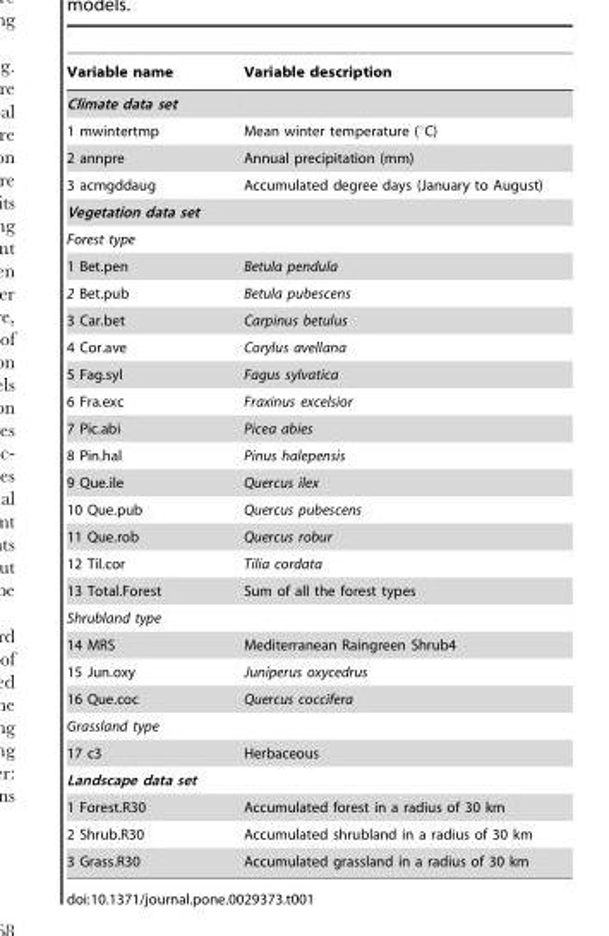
<table><thead><tr><td>Variable name</td><td>Variable description</td></tr></thead><tbody><tr><td colspan="2">Climate data set</td></tr><tr><td>1 mwintertmp</td><td>Mean winter temperature (°C)</td></tr><tr><td>2 annpre</td><td>Annual precipitation (mm)</td></tr><tr><td>3 acmgddaug</td><td>Accumulated degree days (January to August)</td></tr><tr><td colspan="2">Vegetation data set</td></tr><tr><td colspan="2">Forest type</td></tr><tr><td>1 Bet.pen</td><td>Betula pendula</td></tr><tr><td>2 Bet.pub</td><td>Betula pubescens</td></tr><tr><td>3 Car.bet</td><td>Carpinus betulus</td></tr><tr><td>4 Cor.ave</td><td>Corylus avellana</td></tr><tr><td>5 Fag.syl</td><td>Fagus sylvatica</td></tr><tr><td>6 Fra.exc</td><td>Fraxinus excelsior</td></tr><tr><td>7 Pic.abi</td><td>Picea abies</td></tr><tr><td>8 Pin.hal</td><td>Pinus halepensis</td></tr><tr><td>9 Que.ile</td><td>Quercus ilex</td></tr><tr><td>10 Que.pub</td><td>Quercus pubescens</td></tr><tr><td>11 Que.rob</td><td>Quercus robur</td></tr><tr><td>12 Til.cor</td><td>Tilia cordata</td></tr><tr><td>13 Total.Forest</td><td>Sum of all the forest types</td></tr><tr><td colspan="2">Shrubland type</td></tr><tr><td>14 MRS</td><td>Mediterranean Raingreen Shrub4</td></tr><tr><td>15 Jun.oxy</td><td>Juniperus oxycedrus</td></tr><tr><td>16 Que.coc</td><td>Quercus coccifera</td></tr><tr><td colspan="2">Grassland type</td></tr><tr><td>17 c3</td><td>Herbaceous</td></tr><tr><td colspan="2">Landscape data set</td></tr><tr><td>1 Forest.R30</td><td>Accumulated forest in a radius of 30 km</td></tr><tr><td>2 Shrub.R30</td><td>Accumulated shrubland in a radius of 30 km</td></tr><tr><td>3 Grass.R30</td><td>Accumulated grassland in a radius of 30 km</td></tr></tbody></table>